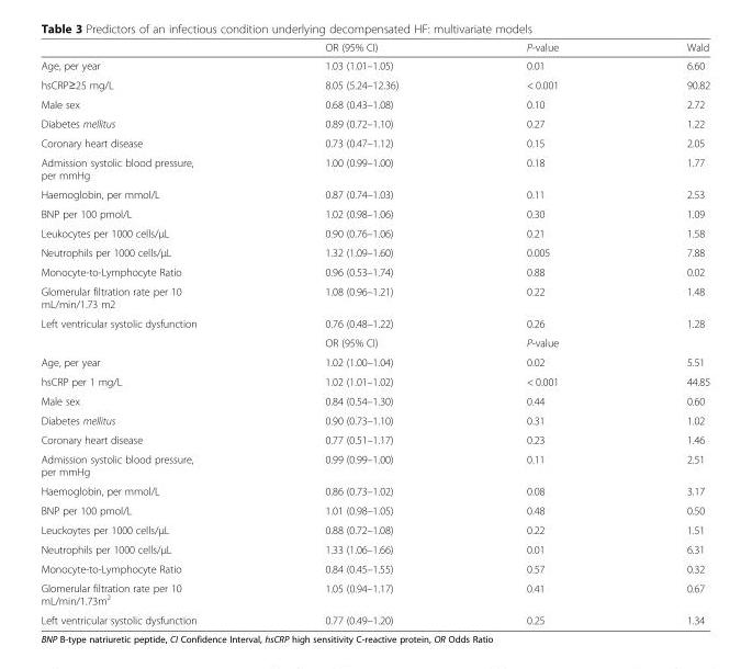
<table><thead><tr><td></td><td>OR (95% CI)</td><td>P-value</td><td>Wald</td></tr></thead><tbody><tr><td>Age, per year</td><td>1.03 (1.01–1.05)</td><td>0.01</td><td>6.60</td></tr><tr><td>hsCRP≥25 mg/L</td><td>8.05 (5.24–12.36)</td><td>&lt; 0.001</td><td>90.82</td></tr><tr><td>Male sex</td><td>0.68 (0.43–1.08)</td><td>0.10</td><td>2.72</td></tr><tr><td>Diabetes mellitus</td><td>0.89 (0.72–1.10)</td><td>0.27</td><td>1.22</td></tr><tr><td>Coronary heart disease</td><td>0.73 (0.47–1.12)</td><td>0.15</td><td>2.05</td></tr><tr><td>Admission systolic blood pressure, per mmHg</td><td>1.00 (0.99–1.00)</td><td>0.18</td><td>1.77</td></tr><tr><td>Haemoglobin, per mmol/L</td><td>0.87 (0.74–1.03)</td><td>0.11</td><td>2.53</td></tr><tr><td>BNP per 100 pmol/L</td><td>1.02 (0.98–1.06)</td><td>0.30</td><td>1.09</td></tr><tr><td>Leukocytes per 1000 cells/μL</td><td>0.90 (0.76–1.06)</td><td>0.21</td><td>1.58</td></tr><tr><td>Neutrophils per 1000 cells/μL</td><td>1.32 (1.09–1.60)</td><td>0.005</td><td>7.88</td></tr><tr><td>Monocyte-to-Lymphocyte Ratio</td><td>0.96 (0.53–1.74)</td><td>0.88</td><td>0.02</td></tr><tr><td>Glomerular filtration rate per 10 mL/min/1.73 m2</td><td>1.08 (0.96–1.21)</td><td>0.22</td><td>1.48</td></tr><tr><td rowspan="2">Left ventricular systolic dysfunction</td><td>0.76 (0.48–1.22)</td><td>0.26</td><td>1.28</td></tr><tr><td>OR (95% CI)</td><td>P-value</td><td></td></tr><tr><td>Age, per year</td><td>1.02 (1.00–1.04)</td><td>0.02</td><td>5.51</td></tr><tr><td>hsCRP per 1 mg/L</td><td>1.02 (1.01–1.02)</td><td>&lt; 0.001</td><td>44.85</td></tr><tr><td>Male sex</td><td>0.84 (0.54–1.30)</td><td>0.44</td><td>0.60</td></tr><tr><td>Diabetes mellitus</td><td>0.90 (0.73–1.10)</td><td>0.31</td><td>1.02</td></tr><tr><td>Coronary heart disease</td><td>0.77 (0.51–1.17)</td><td>0.23</td><td>1.46</td></tr><tr><td>Admission systolic blood pressure, per mmHg</td><td>0.99 (0.99–1.00)</td><td>0.11</td><td>2.51</td></tr><tr><td>Haemoglobin, per mmol/L</td><td>0.86 (0.73–1.02)</td><td>0.08</td><td>3.17</td></tr><tr><td>BNP per 100 pmol/L</td><td>1.01 (0.98–1.05)</td><td>0.48</td><td>0.50</td></tr><tr><td>Leuckoytes per 1000 cells/μL</td><td>0.88 (0.72–1.08)</td><td>0.22</td><td>1.51</td></tr><tr><td>Neutrophils per 1000 cells/μL</td><td>1.33 (1.06–1.66)</td><td>0.01</td><td>6.31</td></tr><tr><td>Monocyte-to-Lymphocyte Ratio</td><td>0.84 (0.45–1.55)</td><td>0.57</td><td>0.32</td></tr><tr><td>Glomerular filtration rate per 10 mL/min/1.73m<sup>2</sup></td><td>1.05 (0.94–1.17)</td><td>0.41</td><td>0.67</td></tr><tr><td>Left ventricular systolic dysfunction</td><td>0.77 (0.49–1.20)</td><td>0.25</td><td>1.34</td></tr></tbody></table>